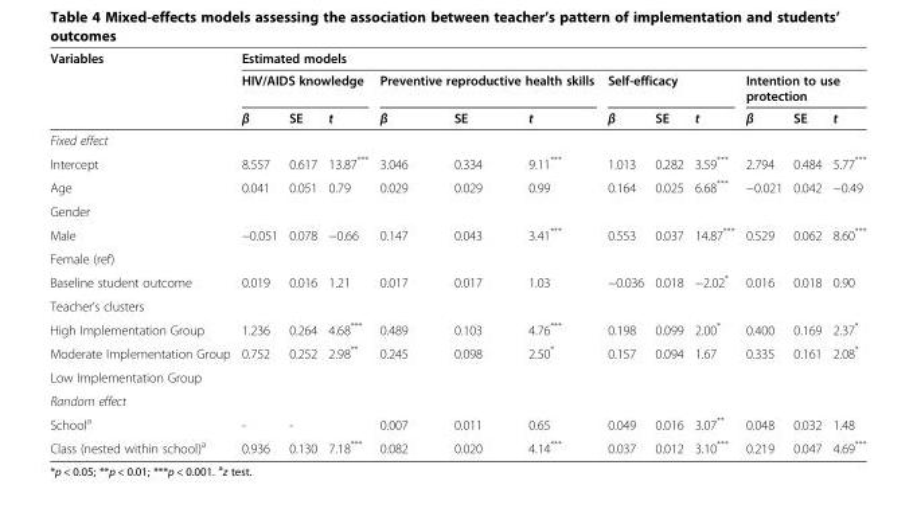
<table><thead><tr><td rowspan="3">Variables</td><td colspan="12">Estimated models</td></tr><tr><td colspan="3">HIV/AIDS knowledge</td><td colspan="3">Preventive reproductive health skills</td><td colspan="3">Self-efficacy</td><td colspan="3">Intention to use protection</td></tr><tr><td>β</td><td>SE</td><td>t</td><td>β</td><td>SE</td><td>t</td><td>β</td><td>SE</td><td>t</td><td>β</td><td>SE</td><td>t</td></tr></thead><tbody><tr><td colspan="13">Fixed effect</td></tr><tr><td>Intercept</td><td>8.557</td><td>0.617</td><td>13.87***</td><td>3.046</td><td>0.334</td><td>9.11***</td><td>1.013</td><td>0.282</td><td>3.59***</td><td>2.794</td><td>0.484</td><td>5.77***</td></tr><tr><td>Age</td><td>0.041</td><td>0.051</td><td>0.79</td><td>0.029</td><td>0.029</td><td>0.99</td><td>0.164</td><td>0.025</td><td>6.68***</td><td>−0.021</td><td>0.042</td><td>−0.49</td></tr><tr><td colspan="13">Gender</td></tr><tr><td>Male</td><td>−0.051</td><td>0.078</td><td>−0.66</td><td>0.147</td><td>0.043</td><td>3.41***</td><td>0.553</td><td>0.037</td><td>14.87***</td><td>0.529</td><td>0.062</td><td>8.60***</td></tr><tr><td colspan="13">Female (ref)</td></tr><tr><td>Baseline student outcome</td><td>0.019</td><td>0.016</td><td>1.21</td><td>0.017</td><td>0.017</td><td>1.03</td><td>−0.036</td><td>0.018</td><td>−2.02*</td><td>0.016</td><td>0.018</td><td>0.90</td></tr><tr><td colspan="13">Teacher’s clusters</td></tr><tr><td>High Implementation Group</td><td>1.236</td><td>0.264</td><td>4.68***</td><td>0.489</td><td>0.103</td><td>4.76***</td><td>0.198</td><td>0.099</td><td>2.00*</td><td>0.400</td><td>0.169</td><td>2.37*</td></tr><tr><td>Moderate Implementation Group</td><td>0.752</td><td>0.252</td><td>2.98**</td><td>0.245</td><td>0.098</td><td>2.50*</td><td>0.157</td><td>0.094</td><td>1.67</td><td>0.335</td><td>0.161</td><td>2.08*</td></tr><tr><td colspan="13">Low Implementation Group</td></tr><tr><td colspan="13">Random effect</td></tr><tr><td>School<sup>a</sup></td><td>-</td><td>-</td><td></td><td>0.007</td><td>0.011</td><td>0.65</td><td>0.049</td><td>0.016</td><td>3.07**</td><td>0.048</td><td>0.032</td><td>1.48</td></tr><tr><td>Class (nested within school)<sup>a</sup></td><td>0.936</td><td>0.130</td><td>7.18***</td><td>0.082</td><td>0.020</td><td>4.14***</td><td>0.037</td><td>0.012</td><td>3.10***</td><td>0.219</td><td>0.047</td><td>4.69***</td></tr></tbody></table>